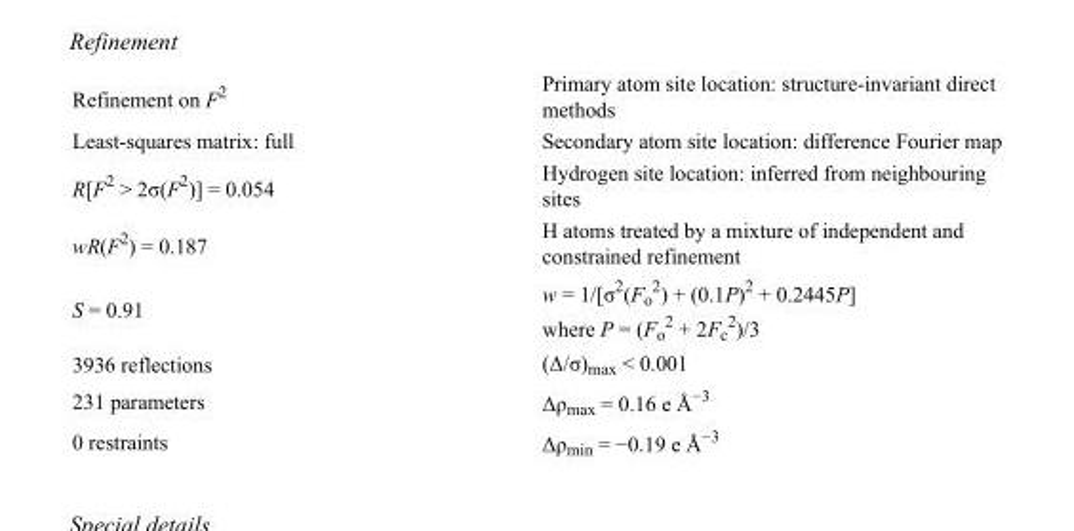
<table><tbody><tr><td>Refinement on F<sup>2</sup></td><td>Primary atom site location: structure-invariant direct methods</td></tr><tr><td>Least-squares matrix: full</td><td>Secondary atom site location: difference Fourier map</td></tr><tr><td>R[F<sup>2</sup> &gt; 2σ(F<sup>2</sup>)] = 0.054</td><td>Hydrogen site location: inferred from neighbouring sites</td></tr><tr><td>wR(F<sup>2</sup>) = 0.187</td><td>H atoms treated by a mixture of independent and constrained refinement</td></tr><tr><td>S = 0.91</td><td>w = 1/[σ<sup>2</sup>(F<sub>o</sub> <sup>2</sup>) + (0.1P)<sup>2</sup> + 0.2445P] where P = (F<sub>o</sub> <sup>2</sup> + 2F<sub>c</sub> <sup>2</sup>)/3</td></tr><tr><td>3936 reflections</td><td>(Δ/σ)<sub>max</sub> &lt; 0.001</td></tr><tr><td>231 parameters</td><td>Δρ<sub>max</sub> = 0.16 e Å<sup>−3</sup></td></tr><tr><td>0 restraints</td><td>Δρ<sub>min</sub> = −0.19 e Å<sup>−3</sup></td></tr></tbody></table>